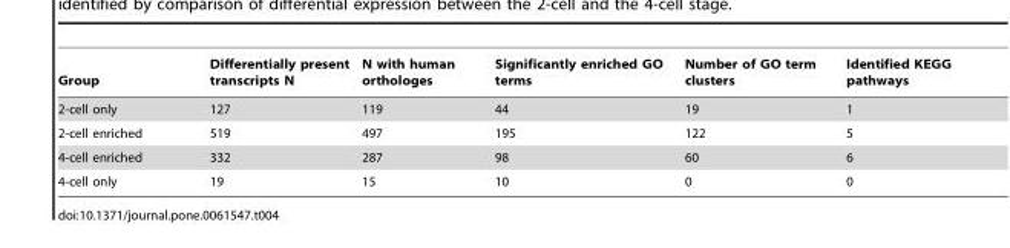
<table><thead><tr><td>Group</td><td>Differentially present transcripts N</td><td>N with human orthologes</td><td>Significantly enriched GO terms</td><td>Number of GO term clusters</td><td>Identified KEGG pathways</td></tr></thead><tbody><tr><td>2-cell only</td><td>127</td><td>119</td><td>44</td><td>19</td><td>1</td></tr><tr><td>2-cell enriched</td><td>519</td><td>497</td><td>195</td><td>122</td><td>5</td></tr><tr><td>4-cell enriched</td><td>332</td><td>287</td><td>98</td><td>60</td><td>6</td></tr><tr><td>4-cell only</td><td>19</td><td>15</td><td>10</td><td>0</td><td>0</td></tr></tbody></table>